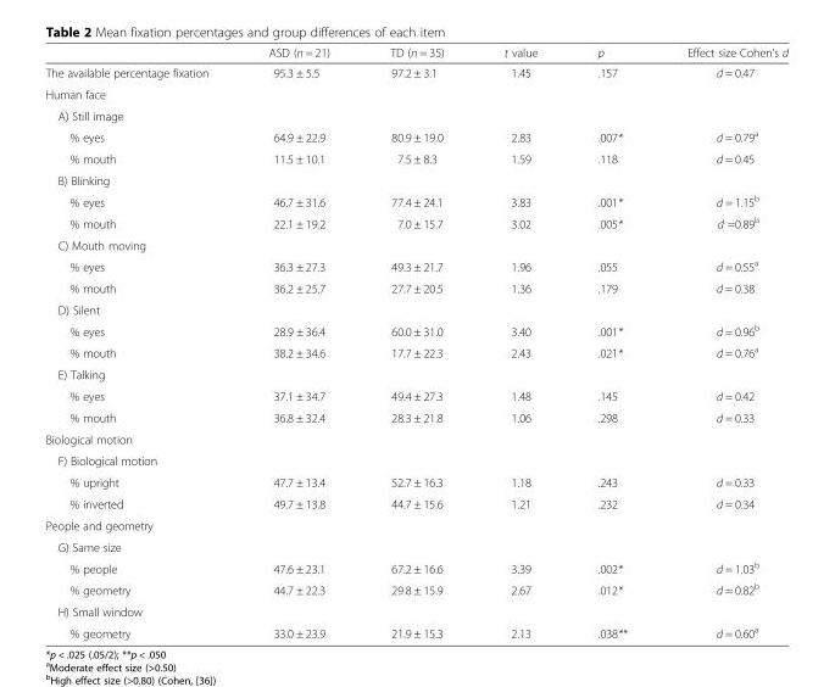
<table><thead><tr><td></td><td>ASD (n = 21)</td><td>TD (n = 35)</td><td>t value</td><td>p</td><td>Effect size Cohen’s d</td></tr></thead><tbody><tr><td>The available percentage fixation</td><td>95.3 ± 5.5</td><td>97.2 ± 3.1</td><td>1.45</td><td>.157</td><td>d = 0.47</td></tr><tr><td colspan="6">Human face</td></tr><tr><td colspan="6">A) Still image</td></tr><tr><td>% eyes</td><td>64.9 ± 22.9</td><td>80.9 ± 19.0</td><td>2.83</td><td>.007*</td><td>d = 0.79<sup>a</sup></td></tr><tr><td>% mouth</td><td>11.5 ± 10.1</td><td>7.5 ± 8.3</td><td>1.59</td><td>.118</td><td>d = 0.45</td></tr><tr><td colspan="6">B) Blinking</td></tr><tr><td>% eyes</td><td>46.7 ± 31.6</td><td>77.4 ± 24.1</td><td>3.83</td><td>.001*</td><td>d = 1.15<sup>b</sup></td></tr><tr><td>% mouth</td><td>22.1 ± 19.2</td><td>7.0 ± 15.7</td><td>3.02</td><td>.005*</td><td>d =0.89<sup>b</sup></td></tr><tr><td colspan="6">C) Mouth moving</td></tr><tr><td>% eyes</td><td>36.3 ± 27.3</td><td>49.3 ± 21.7</td><td>1.96</td><td>.055</td><td>d = 0.55<sup>a</sup></td></tr><tr><td>% mouth</td><td>36.2 ± 25.7</td><td>27.7 ± 20.5</td><td>1.36</td><td>.179</td><td>d = 0.38</td></tr><tr><td colspan="6">D) Silent</td></tr><tr><td>% eyes</td><td>28.9 ± 36.4</td><td>60.0 ± 31.0</td><td>3.40</td><td>.001*</td><td>d = 0.96<sup>b</sup></td></tr><tr><td>% mouth</td><td>38.2 ± 34.6</td><td>17.7 ± 22.3</td><td>2.43</td><td>.021*</td><td>d = 0.76<sup>a</sup></td></tr><tr><td colspan="6">E) Talking</td></tr><tr><td>% eyes</td><td>37.1 ± 34.7</td><td>49.4 ± 27.3</td><td>1.48</td><td>.145</td><td>d = 0.42</td></tr><tr><td>% mouth</td><td>36.8 ± 32.4</td><td>28.3 ± 21.8</td><td>1.06</td><td>.298</td><td>d = 0.33</td></tr><tr><td colspan="6">Biological motion</td></tr><tr><td colspan="6">F) Biological motion</td></tr><tr><td>% upright</td><td>47.7 ± 13.4</td><td>52.7 ± 16.3</td><td>1.18</td><td>.243</td><td>d = 0.33</td></tr><tr><td>% inverted</td><td>49.7 ± 13.8</td><td>44.7 ± 15.6</td><td>1.21</td><td>.232</td><td>d = 0.34</td></tr><tr><td colspan="6">People and geometry</td></tr><tr><td colspan="6">G) Same size</td></tr><tr><td>% people</td><td>47.6 ± 23.1</td><td>67.2 ± 16.6</td><td>3.39</td><td>.002*</td><td>d = 1.03<sup>b</sup></td></tr><tr><td>% geometry</td><td>44.7 ± 22.3</td><td>29.8 ± 15.9</td><td>2.67</td><td>.012*</td><td>d = 0.82<sup>b</sup></td></tr><tr><td colspan="6">H) Small window</td></tr><tr><td>% geometry</td><td>33.0 ± 23.9</td><td>21.9 ± 15.3</td><td>2.13</td><td>.038**</td><td>d = 0.60<sup>a</sup></td></tr></tbody></table>